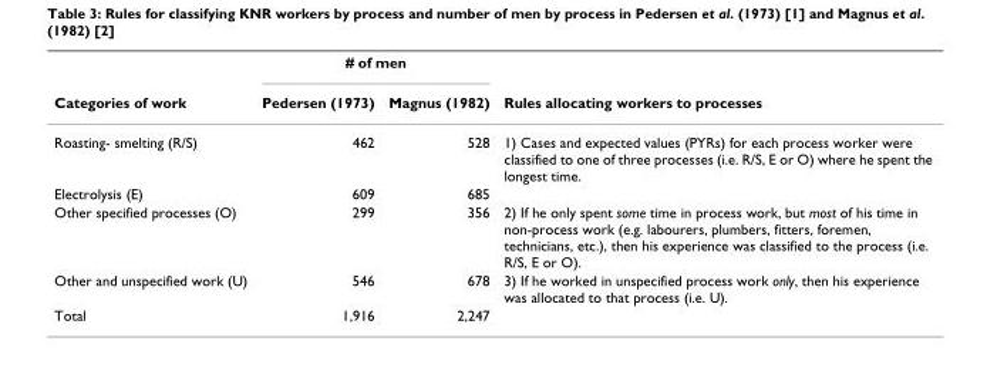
<table><thead><tr><td rowspan="2">Categories of work</td><td colspan="2"># of men</td><td rowspan="2">Rules allocating workers to processes</td></tr><tr><td>Pedersen (1973)</td><td>Magnus (1982)</td></tr></thead><tbody><tr><td>Roasting- smelting (R/S)</td><td>462</td><td>528</td><td>1) Cases and expected values (PYRs) for each process worker were classified to one of three processes (i.e. R/S, E or O) where he spent the longest time.</td></tr><tr><td>Electrolysis (E)</td><td>609</td><td>685</td><td></td></tr><tr><td>Other specified processes (O)</td><td>299</td><td>356</td><td>2) If he only spent some time in process work, but most of his time in non-process work (e.g. labourers, plumbers, fitters, foremen, technicians, etc.), then his experience was classified to the process (i.e. R/S, E or O).</td></tr><tr><td>Other and unspecified work (U)</td><td>546</td><td>678</td><td>3) If he worked in unspecified process work only, then his experience was allocated to that process (i.e. U).</td></tr><tr><td>Total</td><td>1,916</td><td>2,247</td><td></td></tr></tbody></table>